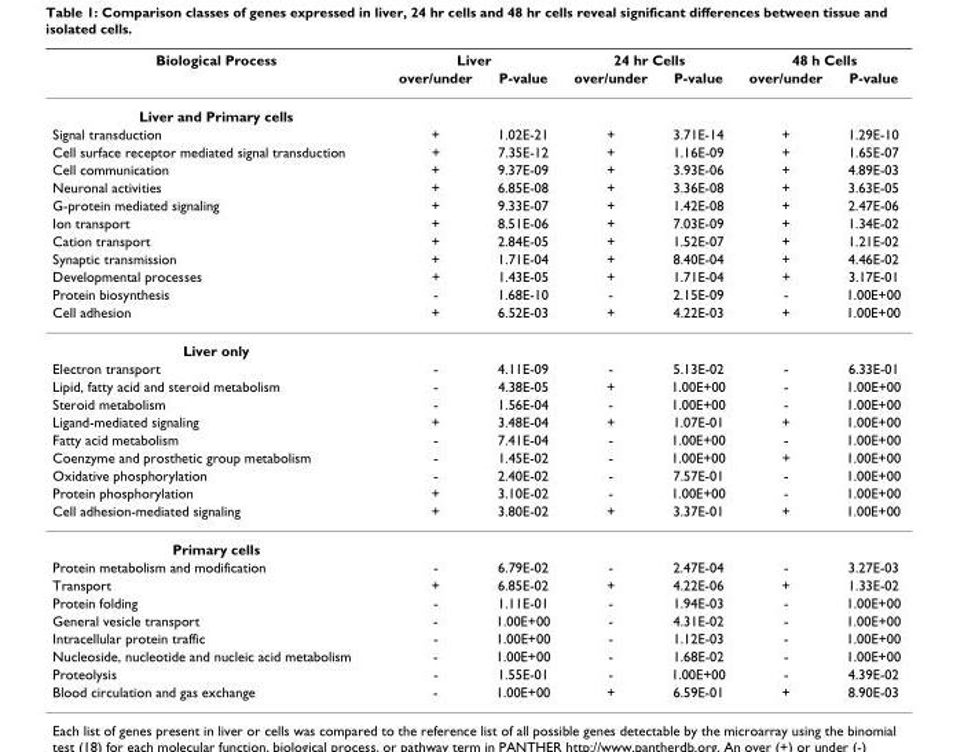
<table><thead><tr><td rowspan="2">Biological Process</td><td colspan="2">Liver</td><td colspan="2">24 hr Cells</td><td colspan="2">48 h Cells</td></tr><tr><td>over/under</td><td>P-value</td><td>over/under</td><td>P-value</td><td>over/under</td><td>P-value</td></tr></thead><tbody><tr><td colspan="7">Liver and Primary cells</td></tr><tr><td>Signal transduction</td><td>+</td><td>1.02E-21</td><td>+</td><td>3.71E-14</td><td>+</td><td>1.29E-10</td></tr><tr><td>Cell surface receptor mediated signal transduction</td><td>+</td><td>7.35E-12</td><td>+</td><td>1.16E-09</td><td>+</td><td>1.65E-07</td></tr><tr><td>Cell communication</td><td>+</td><td>9.37E-09</td><td>+</td><td>3.93E-06</td><td>+</td><td>4.89E-03</td></tr><tr><td>Neuronal activities</td><td>+</td><td>6.85E-08</td><td>+</td><td>3.36E-08</td><td>+</td><td>3.63E-05</td></tr><tr><td>G-protein mediated signaling</td><td>+</td><td>9.33E-07</td><td>+</td><td>1.42E-08</td><td>+</td><td>2.47E-06</td></tr><tr><td>Ion transport</td><td>+</td><td>8.51E-06</td><td>+</td><td>7.03E-09</td><td>+</td><td>1.34E-02</td></tr><tr><td>Cation transport</td><td>+</td><td>2.84E-05</td><td>+</td><td>1.52E-07</td><td>+</td><td>1.21E-02</td></tr><tr><td>Synaptic transmission</td><td>+</td><td>1.71E-04</td><td>+</td><td>8.40E-04</td><td>+</td><td>4.46E-02</td></tr><tr><td>Developmental processes</td><td>+</td><td>1.43E-05</td><td>+</td><td>1.71E-04</td><td>+</td><td>3.17E-01</td></tr><tr><td>Protein biosynthesis</td><td>-</td><td>1.68E-10</td><td>-</td><td>2.15E-09</td><td>-</td><td>1.00E+00</td></tr><tr><td>Cell adhesion</td><td>+</td><td>6.52E-03</td><td>+</td><td>4.22E-03</td><td>+</td><td>1.00E+00</td></tr><tr><td colspan="7">Liver only</td></tr><tr><td>Electron transport</td><td>-</td><td>4.11E-09</td><td>-</td><td>5.13E-02</td><td>-</td><td>6.33E-01</td></tr><tr><td>Lipid, fatty acid and steroid metabolism</td><td>-</td><td>4.38E-05</td><td>+</td><td>1.00E+00</td><td>-</td><td>1.00E+00</td></tr><tr><td>Steroid metabolism</td><td>-</td><td>1.56E-04</td><td>-</td><td>1.00E+00</td><td>-</td><td>1.00E+00</td></tr><tr><td>Ligand-mediated signaling</td><td>+</td><td>3.48E-04</td><td>+</td><td>1.07E-01</td><td>+</td><td>1.00E+00</td></tr><tr><td>Fatty acid metabolism</td><td>-</td><td>7.41E-04</td><td>-</td><td>1.00E+00</td><td>-</td><td>1.00E+00</td></tr><tr><td>Coenzyme and prosthetic group metabolism</td><td>-</td><td>1.45E-02</td><td>-</td><td>1.00E+00</td><td>+</td><td>1.00E+00</td></tr><tr><td>Oxidative phosphorylation</td><td>-</td><td>2.40E-02</td><td>-</td><td>7.57E-01</td><td>-</td><td>1.00E+00</td></tr><tr><td>Protein phosphorylation</td><td>+</td><td>3.10E-02</td><td>-</td><td>1.00E+00</td><td>-</td><td>1.00E+00</td></tr><tr><td>Cell adhesion-mediated signaling</td><td>+</td><td>3.80E-02</td><td>+</td><td>3.37E-01</td><td>+</td><td>1.00E+00</td></tr><tr><td colspan="7">Primary cells</td></tr><tr><td>Protein metabolism and modification</td><td>-</td><td>6.79E-02</td><td>-</td><td>2.47E-04</td><td>-</td><td>3.27E-03</td></tr><tr><td>Transport</td><td>+</td><td>6.85E-02</td><td>+</td><td>4.22E-06</td><td>+</td><td>1.33E-02</td></tr><tr><td>Protein folding</td><td>-</td><td>1.11E-01</td><td>-</td><td>1.94E-03</td><td>-</td><td>1.00E+00</td></tr><tr><td>General vesicle transport</td><td>-</td><td>1.00E+00</td><td>-</td><td>4.31E-02</td><td>-</td><td>1.00E+00</td></tr><tr><td>Intracellular protein traffic</td><td>-</td><td>1.00E+00</td><td>-</td><td>1.12E-03</td><td>-</td><td>1.00E+00</td></tr><tr><td>Nucleoside, nucleotide and nucleic acid metabolism</td><td>-</td><td>1.00E+00</td><td>-</td><td>1.68E-02</td><td>-</td><td>1.00E+00</td></tr><tr><td>Proteolysis</td><td>-</td><td>1.55E-01</td><td>-</td><td>1.00E+00</td><td>-</td><td>4.39E-02</td></tr><tr><td>Blood circulation and gas exchange</td><td>-</td><td>1.00E+00</td><td>+</td><td>6.59E-01</td><td>+</td><td>8.90E-03</td></tr></tbody></table>